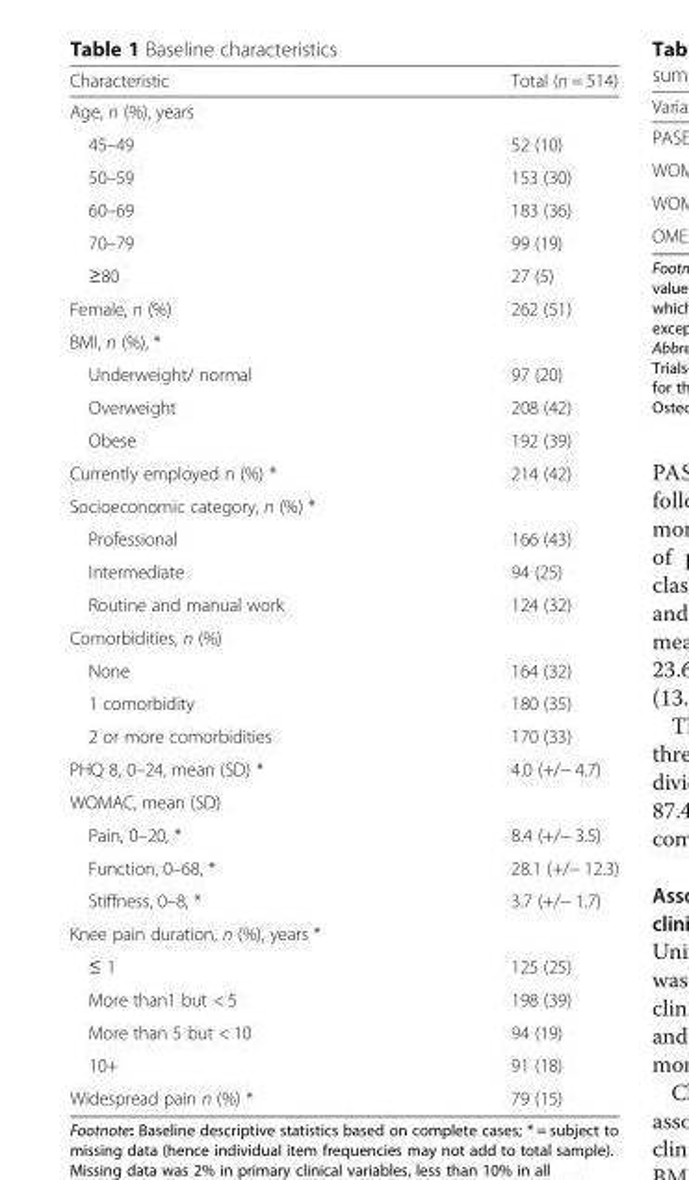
<table><thead><tr><td>Characteristic</td><td>Total (n = 514)</td></tr></thead><tbody><tr><td colspan="2">Age, n (%), years</td></tr><tr><td>45–49</td><td>52 (10)</td></tr><tr><td>50–59</td><td>153 (30)</td></tr><tr><td>60–69</td><td>183 (36)</td></tr><tr><td>70–79</td><td>99 (19)</td></tr><tr><td>≥80</td><td>27 (5)</td></tr><tr><td>Female, n (%)</td><td>262 (51)</td></tr><tr><td colspan="2">BMI, n (%), *</td></tr><tr><td>Underweight/ normal</td><td>97 (20)</td></tr><tr><td>Overweight</td><td>208 (42)</td></tr><tr><td>Obese</td><td>192 (39)</td></tr><tr><td>Currently employed n (%) *</td><td>214 (42)</td></tr><tr><td colspan="2">Socioeconomic category, n (%) *</td></tr><tr><td>Professional</td><td>166 (43)</td></tr><tr><td>Intermediate</td><td>94 (25)</td></tr><tr><td>Routine and manual work</td><td>124 (32)</td></tr><tr><td colspan="2">Comorbidities, n (%)</td></tr><tr><td>None</td><td>164 (32)</td></tr><tr><td>1 comorbidity</td><td>180 (35)</td></tr><tr><td>2 or more comorbidities</td><td>170 (33)</td></tr><tr><td>PHQ 8, 0–24, mean (SD) *</td><td>4.0 (+/− 4.7)</td></tr><tr><td colspan="2">WOMAC, mean (SD)</td></tr><tr><td>Pain, 0–20, *</td><td>8.4 (+/− 3.5)</td></tr><tr><td>Function, 0–68, *</td><td>28.1 (+/− 12.3)</td></tr><tr><td>Stiffness, 0–8, *</td><td>3.7 (+/− 1.7)</td></tr><tr><td colspan="2">Knee pain duration, n (%), years *</td></tr><tr><td>≤ 1</td><td>125 (25)</td></tr><tr><td>More than1 but &lt; 5</td><td>198 (39)</td></tr><tr><td>More than 5 but &lt; 10</td><td>94 (19)</td></tr><tr><td>10+</td><td>91 (18)</td></tr><tr><td>Widespread pain n (%) *</td><td>79 (15)</td></tr></tbody></table>